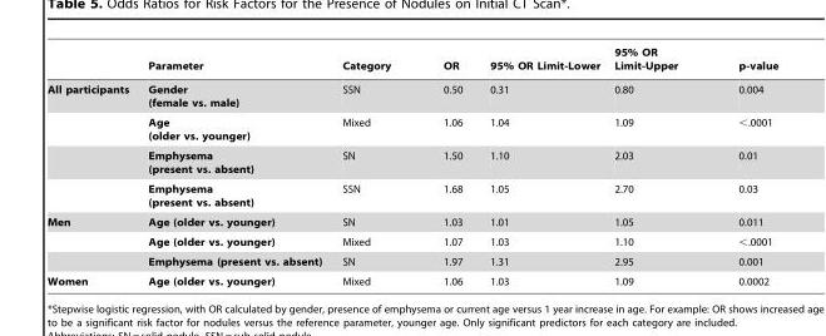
<table><thead><tr><td></td><td>Parameter</td><td>Category</td><td>OR</td><td>95% OR Limit-Lower</td><td>95% OR Limit-Upper</td><td>p-value</td></tr></thead><tbody><tr><td rowspan="4">All participants</td><td>Gender (female vs. male)</td><td>SSN</td><td>0.50</td><td>0.31</td><td>0.80</td><td>0.004</td></tr><tr><td>Age (older vs. younger)</td><td>Mixed</td><td>1.06</td><td>1.04</td><td>1.09</td><td>&lt;.0001</td></tr><tr><td>Emphysema (present vs. absent)</td><td>SN</td><td>1.50</td><td>1.10</td><td>2.03</td><td>0.01</td></tr><tr><td>Emphysema (present vs. absent)</td><td>SSN</td><td>1.68</td><td>1.05</td><td>2.70</td><td>0.03</td></tr><tr><td rowspan="3">Men</td><td>Age (older vs. younger)</td><td>SN</td><td>1.03</td><td>1.01</td><td>1.05</td><td>0.011</td></tr><tr><td>Age (older vs. younger)</td><td>Mixed</td><td>1.07</td><td>1.03</td><td>1.10</td><td>&lt;.0001</td></tr><tr><td>Emphysema (present vs. absent)</td><td>SN</td><td>1.97</td><td>1.31</td><td>2.95</td><td>0.001</td></tr><tr><td>Women</td><td>Age (older vs. younger)</td><td>Mixed</td><td>1.06</td><td>1.03</td><td>1.09</td><td>0.0002</td></tr></tbody></table>